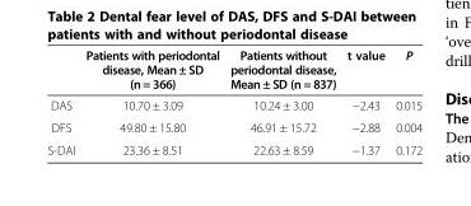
<table><thead><tr><td></td><td>Patients with periodontal disease, Mean ± SD (n = 366)</td><td>Patients without periodontal disease, Mean ± SD (n = 837)</td><td>t value</td><td>P</td></tr></thead><tbody><tr><td>DAS</td><td>10.70 ± 3.09</td><td>10.24 ± 3.00</td><td>−2.43</td><td>0.015</td></tr><tr><td>DFS</td><td>49.80 ± 15.80</td><td>46.91 ± 15.72</td><td>−2.88</td><td>0.004</td></tr><tr><td>S-DAI</td><td>23.36 ± 8.51</td><td>22.63 ± 8.59</td><td>−1.37</td><td>0.172</td></tr></tbody></table>